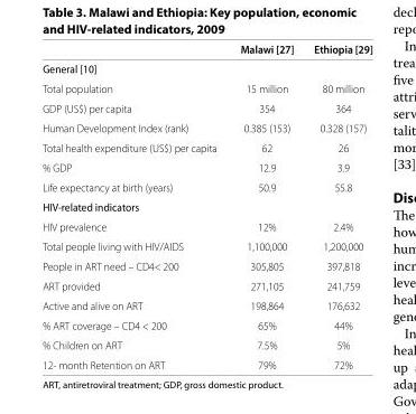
<table><thead><tr><td></td><td>Malawi [27]</td><td>Ethiopia [29]</td></tr></thead><tbody><tr><td colspan="3">General [10]</td></tr><tr><td>Total population</td><td>15 million</td><td>80 million</td></tr><tr><td>GDP (US$) per capita</td><td>354</td><td>364</td></tr><tr><td>Human Development Index (rank)</td><td>0.385 (153)</td><td>0.328 (157)</td></tr><tr><td>Total health expenditure (US$) per capita</td><td>62</td><td>26</td></tr><tr><td>% GDP</td><td>12.9</td><td>3.9</td></tr><tr><td>Life expectancy at birth (years)</td><td>50.9</td><td>55.8</td></tr><tr><td colspan="3">HIV-related indicators</td></tr><tr><td>HIV prevalence</td><td>12%</td><td>2.4%</td></tr><tr><td>Total people living with HIV/AIDS</td><td>1,100,000</td><td>1,200,000</td></tr><tr><td>People in ART need – CD4&lt; 200</td><td>305,805</td><td>397,818</td></tr><tr><td>ART provided</td><td>271,105</td><td>241,759</td></tr><tr><td>Active and alive on ART</td><td>198,864</td><td>176,632</td></tr><tr><td>% ART coverage – CD4 &lt; 200</td><td>65%</td><td>44%</td></tr><tr><td>% Children on ART</td><td>7.5%</td><td>5%</td></tr><tr><td>12- month Retention on ART</td><td>79%</td><td>72%</td></tr></tbody></table>